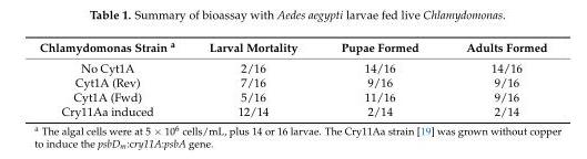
<table><thead><tr><td>Chlamydomonas Strain <sup>a</sup></td><td>Larval Mortality</td><td>Pupae Formed</td><td>Adults Formed</td></tr></thead><tbody><tr><td>No Cyt1A</td><td>2/16</td><td>14/16</td><td>14/16</td></tr><tr><td>Cyt1A (Rev)</td><td>7/16</td><td>9/16</td><td>9/16</td></tr><tr><td>Cyt1A (Fwd)</td><td>5/16</td><td>11/16</td><td>9/16</td></tr><tr><td>Cry11Aa induced</td><td>12/14</td><td>2/14</td><td>2/14</td></tr></tbody></table>